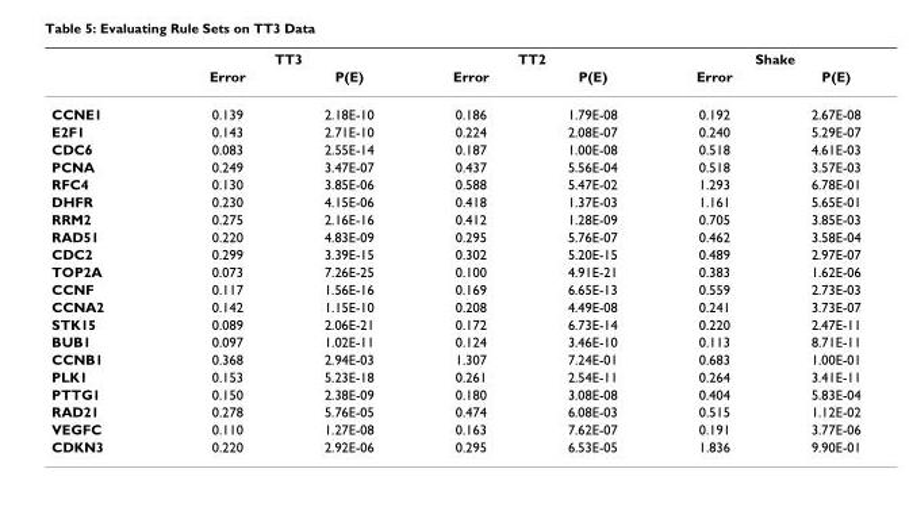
<table><thead><tr><td rowspan="2"></td><td colspan="2">TT3</td><td colspan="2">TT2</td><td colspan="2">Shake</td></tr><tr><td>Error</td><td>P(E)</td><td>Error</td><td>P(E)</td><td>Error</td><td>P(E)</td></tr></thead><tbody><tr><td>CCNE1</td><td>0.139</td><td>2.18E-10</td><td>0.186</td><td>1.79E-08</td><td>0.192</td><td>2.67E-08</td></tr><tr><td>E2F1</td><td>0.143</td><td>2.71E-10</td><td>0.224</td><td>2.08E-07</td><td>0.240</td><td>5.29E-07</td></tr><tr><td>CDC6</td><td>0.083</td><td>2.55E-14</td><td>0.187</td><td>1.00E-08</td><td>0.518</td><td>4.61E-03</td></tr><tr><td>PCNA</td><td>0.249</td><td>3.47E-07</td><td>0.437</td><td>5.56E-04</td><td>0.518</td><td>3.57E-03</td></tr><tr><td>RFC4</td><td>0.130</td><td>3.85E-06</td><td>0.588</td><td>5.47E-02</td><td>1.293</td><td>6.78E-01</td></tr><tr><td>DHFR</td><td>0.230</td><td>4.15E-06</td><td>0.418</td><td>1.37E-03</td><td>1.161</td><td>5.65E-01</td></tr><tr><td>RRM2</td><td>0.275</td><td>2.16E-16</td><td>0.412</td><td>1.28E-09</td><td>0.705</td><td>3.85E-03</td></tr><tr><td>RAD51</td><td>0.220</td><td>4.83E-09</td><td>0.295</td><td>5.76E-07</td><td>0.462</td><td>3.58E-04</td></tr><tr><td>CDC2</td><td>0.299</td><td>3.39E-15</td><td>0.302</td><td>5.20E-15</td><td>0.489</td><td>2.97E-07</td></tr><tr><td>TOP2A</td><td>0.073</td><td>7.26E-25</td><td>0.100</td><td>4.91E-21</td><td>0.383</td><td>1.62E-06</td></tr><tr><td>CCNF</td><td>0.117</td><td>1.56E-16</td><td>0.169</td><td>6.65E-13</td><td>0.559</td><td>2.73E-03</td></tr><tr><td>CCNA2</td><td>0.142</td><td>1.15E-10</td><td>0.208</td><td>4.49E-08</td><td>0.241</td><td>3.73E-07</td></tr><tr><td>STK15</td><td>0.089</td><td>2.06E-21</td><td>0.172</td><td>6.73E-14</td><td>0.220</td><td>2.47E-11</td></tr><tr><td>BUB1</td><td>0.097</td><td>1.02E-11</td><td>0.124</td><td>3.46E-10</td><td>0.113</td><td>8.71E-11</td></tr><tr><td>CCNB1</td><td>0.368</td><td>2.94E-03</td><td>1.307</td><td>7.24E-01</td><td>0.683</td><td>1.00E-01</td></tr><tr><td>PLK1</td><td>0.153</td><td>5.23E-18</td><td>0.261</td><td>2.54E-11</td><td>0.264</td><td>3.41E-11</td></tr><tr><td>PTTG1</td><td>0.150</td><td>2.38E-09</td><td>0.180</td><td>3.08E-08</td><td>0.404</td><td>5.83E-04</td></tr><tr><td>RAD21</td><td>0.278</td><td>5.76E-05</td><td>0.474</td><td>6.08E-03</td><td>0.515</td><td>1.12E-02</td></tr><tr><td>VEGFC</td><td>0.110</td><td>1.27E-08</td><td>0.163</td><td>7.62E-07</td><td>0.191</td><td>3.77E-06</td></tr><tr><td>CDKN3</td><td>0.220</td><td>2.92E-06</td><td>0.295</td><td>6.53E-05</td><td>1.836</td><td>9.90E-01</td></tr></tbody></table>